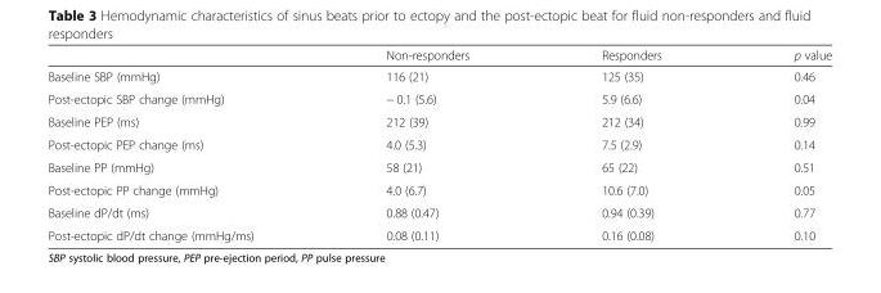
<table><thead><tr><td></td><td>Non-responders</td><td>Responders</td><td>p value</td></tr></thead><tbody><tr><td>Baseline SBP (mmHg)</td><td>116 (21)</td><td>125 (35)</td><td>0.46</td></tr><tr><td>Post-ectopic SBP change (mmHg)</td><td>− 0.1 (5.6)</td><td>5.9 (6.6)</td><td>0.04</td></tr><tr><td>Baseline PEP (ms)</td><td>212 (39)</td><td>212 (34)</td><td>0.99</td></tr><tr><td>Post-ectopic PEP change (ms)</td><td>4.0 (5.3)</td><td>7.5 (2.9)</td><td>0.14</td></tr><tr><td>Baseline PP (mmHg)</td><td>58 (21)</td><td>65 (22)</td><td>0.51</td></tr><tr><td>Post-ectopic PP change (mmHg)</td><td>4.0 (6.7)</td><td>10.6 (7.0)</td><td>0.05</td></tr><tr><td>Baseline dP/dt (ms)</td><td>0.88 (0.47)</td><td>0.94 (0.39)</td><td>0.77</td></tr><tr><td>Post-ectopic dP/dt change (mmHg/ms)</td><td>0.08 (0.11)</td><td>0.16 (0.08)</td><td>0.10</td></tr></tbody></table>